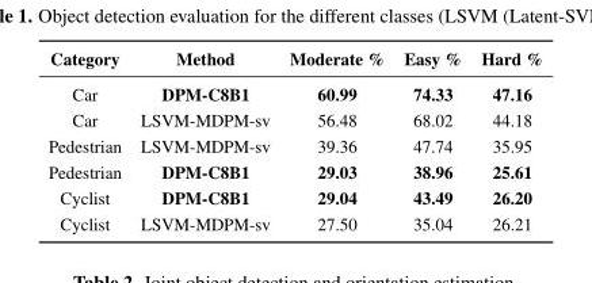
<table><thead><tr><td>Category</td><td>Method</td><td>Moderate %</td><td>Easy %</td><td>Hard %</td></tr></thead><tbody><tr><td>Car</td><td>DPM-C8B1</td><td>60.99</td><td>74.33</td><td>47.16</td></tr><tr><td>Car</td><td>LSVM-MDPM-sv</td><td>56.48</td><td>68.02</td><td>44.18</td></tr><tr><td>Pedestrian</td><td>LSVM-MDPM-sv</td><td>39.36</td><td>47.74</td><td>35.95</td></tr><tr><td>Pedestrian</td><td>DPM-C8B1</td><td>29.03</td><td>38.96</td><td>25.61</td></tr><tr><td>Cyclist</td><td>DPM-C8B1</td><td>29.04</td><td>43.49</td><td>26.20</td></tr><tr><td>Cyclist</td><td>LSVM-MDPM-sv</td><td>27.50</td><td>35.04</td><td>26.21</td></tr></tbody></table>